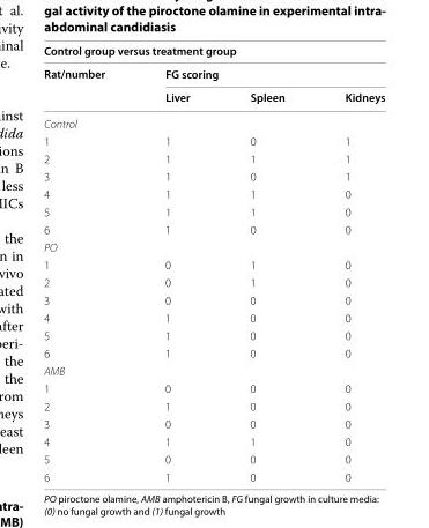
<table><thead><tr><td colspan="4">Control group versus treatment group</td></tr><tr><td rowspan="2">Rat/number</td><td colspan="3">FG scoring</td></tr><tr><td>Liver</td><td>Spleen</td><td>Kidneys</td></tr></thead><tbody><tr><td colspan="4">Control</td></tr><tr><td>1</td><td>1</td><td>0</td><td>1</td></tr><tr><td>2</td><td>1</td><td>1</td><td>1</td></tr><tr><td>3</td><td>1</td><td>0</td><td>1</td></tr><tr><td>4</td><td>1</td><td>1</td><td>0</td></tr><tr><td>5</td><td>1</td><td>1</td><td>0</td></tr><tr><td>6</td><td>1</td><td>0</td><td>0</td></tr><tr><td colspan="4">PO</td></tr><tr><td>1</td><td>0</td><td>1</td><td>0</td></tr><tr><td>2</td><td>0</td><td>1</td><td>0</td></tr><tr><td>3</td><td>0</td><td>0</td><td>0</td></tr><tr><td>4</td><td>1</td><td>0</td><td>0</td></tr><tr><td>5</td><td>1</td><td>0</td><td>0</td></tr><tr><td>6</td><td>1</td><td>0</td><td>0</td></tr><tr><td colspan="4">AMB</td></tr><tr><td>1</td><td>0</td><td>0</td><td>0</td></tr><tr><td>2</td><td>1</td><td>0</td><td>0</td></tr><tr><td>3</td><td>0</td><td>0</td><td>0</td></tr><tr><td>4</td><td>1</td><td>1</td><td>0</td></tr><tr><td>5</td><td>0</td><td>0</td><td>0</td></tr><tr><td>6</td><td>1</td><td>0</td><td>0</td></tr></tbody></table>